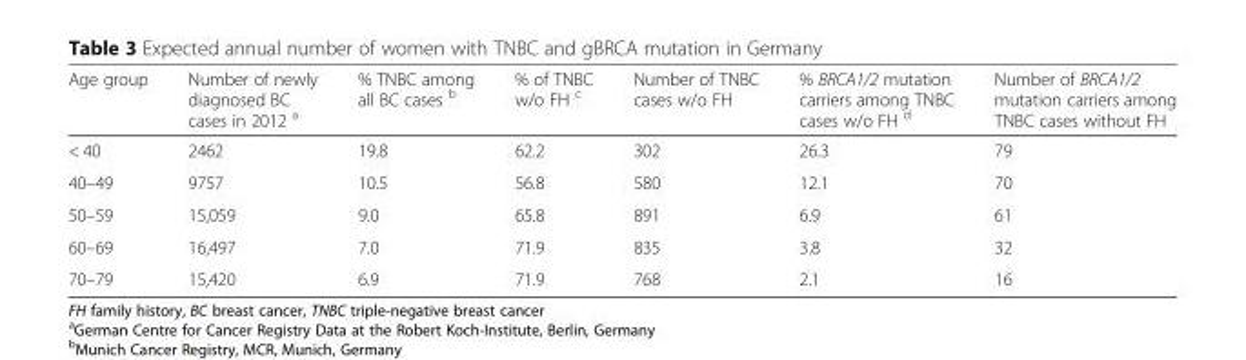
<table><thead><tr><td>Age group</td><td>Number of newly diagnosed BC cases in 2012 <sup>a</sup></td><td>% TNBC among all BC cases <sup>b</sup></td><td>% of TNBC w/o FH <sup>c</sup></td><td>Number of TNBC cases w/o FH</td><td>% BRCA1/2 mutation carriers among TNBC cases w/o FH <sup>d</sup></td><td>Number of BRCA1/2 mutation carriers among TNBC cases without FH</td></tr></thead><tbody><tr><td>&lt; 40</td><td>2462</td><td>19.8</td><td>62.2</td><td>302</td><td>26.3</td><td>79</td></tr><tr><td>40–49</td><td>9757</td><td>10.5</td><td>56.8</td><td>580</td><td>12.1</td><td>70</td></tr><tr><td>50–59</td><td>15,059</td><td>9.0</td><td>65.8</td><td>891</td><td>6.9</td><td>61</td></tr><tr><td>60–69</td><td>16,497</td><td>7.0</td><td>71.9</td><td>835</td><td>3.8</td><td>32</td></tr><tr><td>70–79</td><td>15,420</td><td>6.9</td><td>71.9</td><td>768</td><td>2.1</td><td>16</td></tr></tbody></table>